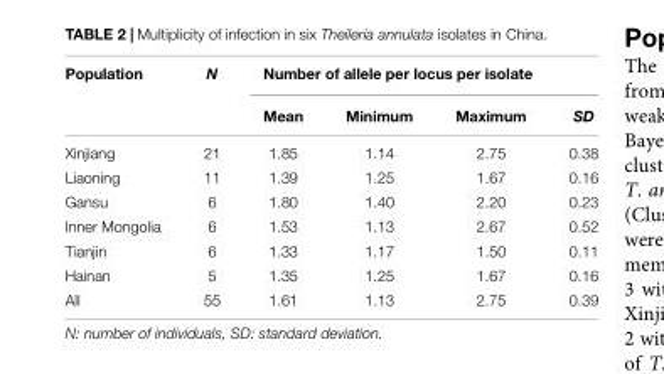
<table><thead><tr><td rowspan="2">Population</td><td rowspan="2">N</td><td colspan="4">Number of allele per locus per isolate</td></tr><tr><td>Mean</td><td>Minimum</td><td>Maximum</td><td>SD</td></tr></thead><tbody><tr><td>Xinjiang</td><td>21</td><td>1.85</td><td>1.14</td><td>2.75</td><td>0.38</td></tr><tr><td>Liaoning</td><td>11</td><td>1.39</td><td>1.25</td><td>1.67</td><td>0.16</td></tr><tr><td>Gansu</td><td>6</td><td>1.80</td><td>1.40</td><td>2.20</td><td>0.23</td></tr><tr><td>Inner Mongolia</td><td>6</td><td>1.53</td><td>1.13</td><td>2.67</td><td>0.52</td></tr><tr><td>Tianjin</td><td>6</td><td>1.33</td><td>1.17</td><td>1.50</td><td>0.11</td></tr><tr><td>Hainan</td><td>5</td><td>1.35</td><td>1.25</td><td>1.67</td><td>0.16</td></tr><tr><td>All</td><td>55</td><td>1.61</td><td>1.13</td><td>2.75</td><td>0.39</td></tr></tbody></table>